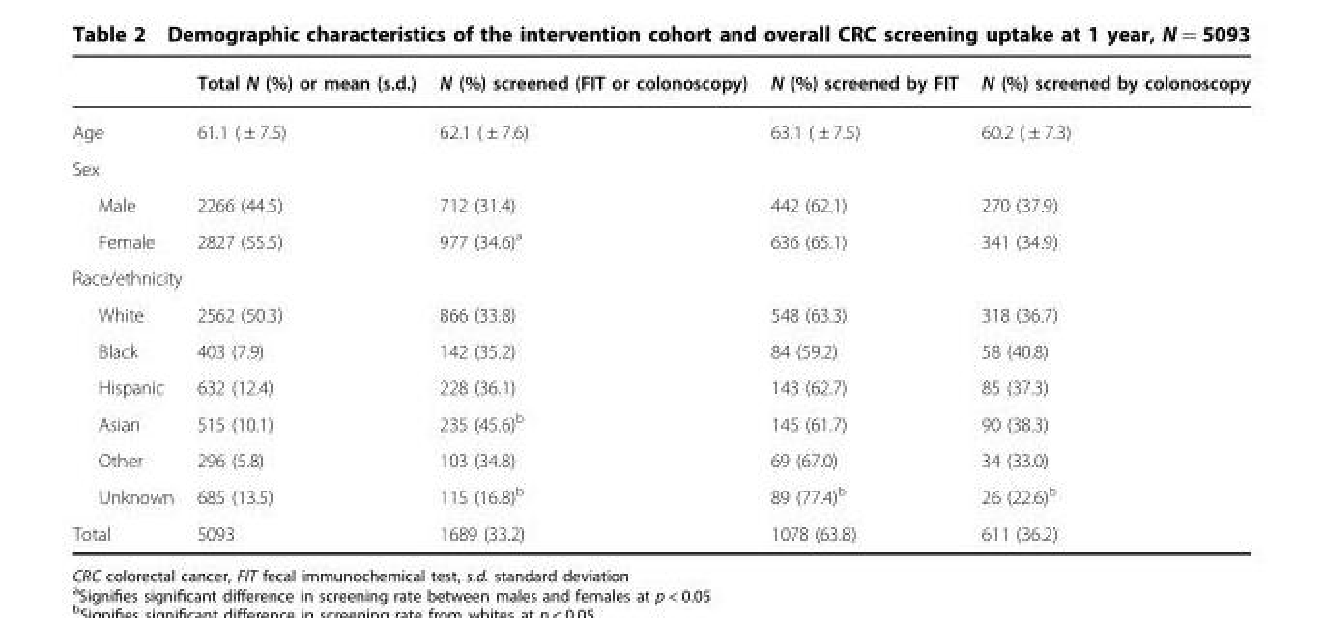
<table><thead><tr><td></td><td>Total N (%) or mean (s.d.)</td><td>N (%) screened (FIT or colonoscopy)</td><td>N (%) screened by FIT</td><td>N (%) screened by colonoscopy</td></tr></thead><tbody><tr><td>Age</td><td>61.1 ( ± 7.5)</td><td>62.1 ( ± 7.6)</td><td>63.1 ( ± 7.5)</td><td>60.2 ( ± 7.3)</td></tr><tr><td colspan="5">Sex</td></tr><tr><td>Male</td><td>2266 (44.5)</td><td>712 (31.4)</td><td>442 (62.1)</td><td>270 (37.9)</td></tr><tr><td>Female</td><td>2827 (55.5)</td><td>977 (34.6)<sup>a</sup></td><td>636 (65.1)</td><td>341 (34.9)</td></tr><tr><td colspan="5">Race/ethnicity</td></tr><tr><td>White</td><td>2562 (50.3)</td><td>866 (33.8)</td><td>548 (63.3)</td><td>318 (36.7)</td></tr><tr><td>Black</td><td>403 (7.9)</td><td>142 (35.2)</td><td>84 (59.2)</td><td>58 (40.8)</td></tr><tr><td>Hispanic</td><td>632 (12.4)</td><td>228 (36.1)</td><td>143 (62.7)</td><td>85 (37.3)</td></tr><tr><td>Asian</td><td>515 (10.1)</td><td>235 (45.6)<sup>b</sup></td><td>145 (61.7)</td><td>90 (38.3)</td></tr><tr><td>Other</td><td>296 (5.8)</td><td>103 (34.8)</td><td>69 (67.0)</td><td>34 (33.0)</td></tr><tr><td>Unknown</td><td>685 (13.5)</td><td>115 (16.8)<sup>b</sup></td><td>89 (77.4)<sup>b</sup></td><td>26 (22.6)<sup>b</sup></td></tr><tr><td>Total</td><td>5093</td><td>1689 (33.2)</td><td>1078 (63.8)</td><td>611 (36.2)</td></tr></tbody></table>